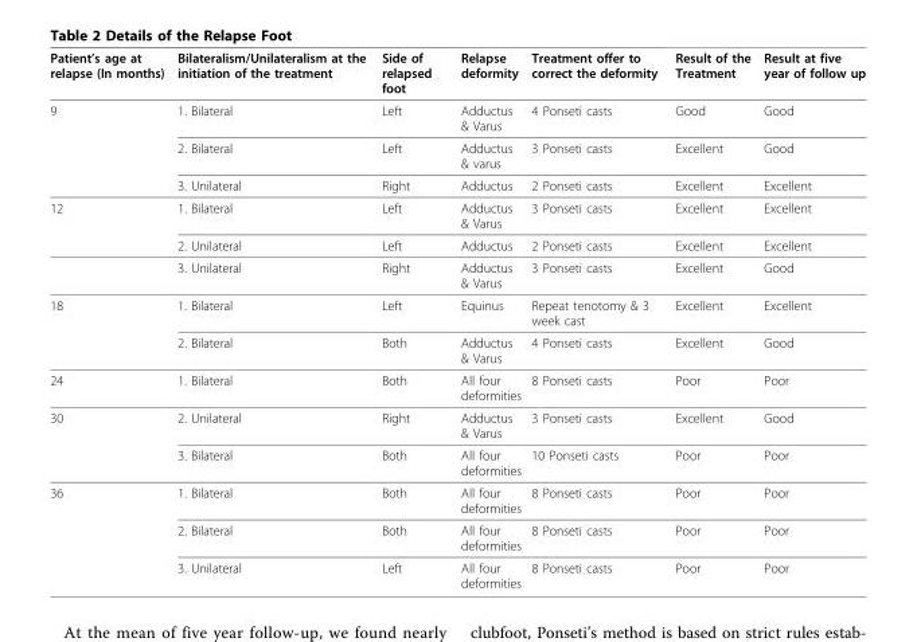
<table><thead><tr><td>Patient’s age at relapse (In months)</td><td>Bilateralism/Unilateralism at the initiation of the treatment</td><td>Side of relapsed foot</td><td>Relapse deformity</td><td>Treatment offer to correct the deformity</td><td>Result of the Treatment</td><td>Result at five year of follow up</td></tr></thead><tbody><tr><td rowspan="3">9</td><td>1. Bilateral</td><td>Left</td><td>Adductus &amp; Varus</td><td>4 Ponseti casts</td><td>Good</td><td>Good</td></tr><tr><td>2. Bilateral</td><td>Left</td><td>Adductus &amp; varus</td><td>3 Ponseti casts</td><td>Excellent</td><td>Good</td></tr><tr><td>3. Unilateral</td><td>Right</td><td>Adductus</td><td>2 Ponseti casts</td><td>Excellent</td><td>Excellent</td></tr><tr><td rowspan="3">12</td><td>1. Bilateral</td><td>Left</td><td>Adductus &amp; Varus</td><td>3 Ponseti casts</td><td>Excellent</td><td>Excellent</td></tr><tr><td>2. Unilateral</td><td>Left</td><td>Adductus</td><td>2 Ponseti casts</td><td>Excellent</td><td>Excellent</td></tr><tr><td>3. Unilateral</td><td>Right</td><td>Adductus &amp; Varus</td><td>3 Ponseti casts</td><td>Excellent</td><td>Good</td></tr><tr><td rowspan="2">18</td><td>1. Bilateral</td><td>Left</td><td>Equinus</td><td>Repeat tenotomy &amp; 3 week cast</td><td>Excellent</td><td>Excellent</td></tr><tr><td>2. Bilateral</td><td>Both</td><td>Adductus &amp; Varus</td><td>4 Ponseti casts</td><td>Excellent</td><td>Good</td></tr><tr><td>24</td><td>1. Bilateral</td><td>Both</td><td>All four deformities</td><td>8 Ponseti casts</td><td>Poor</td><td>Poor</td></tr><tr><td rowspan="2">30</td><td>2. Unilateral</td><td>Right</td><td>Adductus &amp; Varus</td><td>3 Ponseti casts</td><td>Excellent</td><td>Good</td></tr><tr><td>3. Bilateral</td><td>Both</td><td>All four deformities</td><td>10 Ponseti casts</td><td>Poor</td><td>Poor</td></tr><tr><td rowspan="3">36</td><td>1. Bilateral</td><td>Both</td><td>All four deformities</td><td>8 Ponseti casts</td><td>Poor</td><td>Poor</td></tr><tr><td>2. Bilateral</td><td>Both</td><td>All four deformities</td><td>8 Ponseti casts</td><td>Poor</td><td>Poor</td></tr><tr><td>3. Unilateral</td><td>Left</td><td>All four deformities</td><td>8 Ponseti casts</td><td>Poor</td><td>Poor</td></tr></tbody></table>